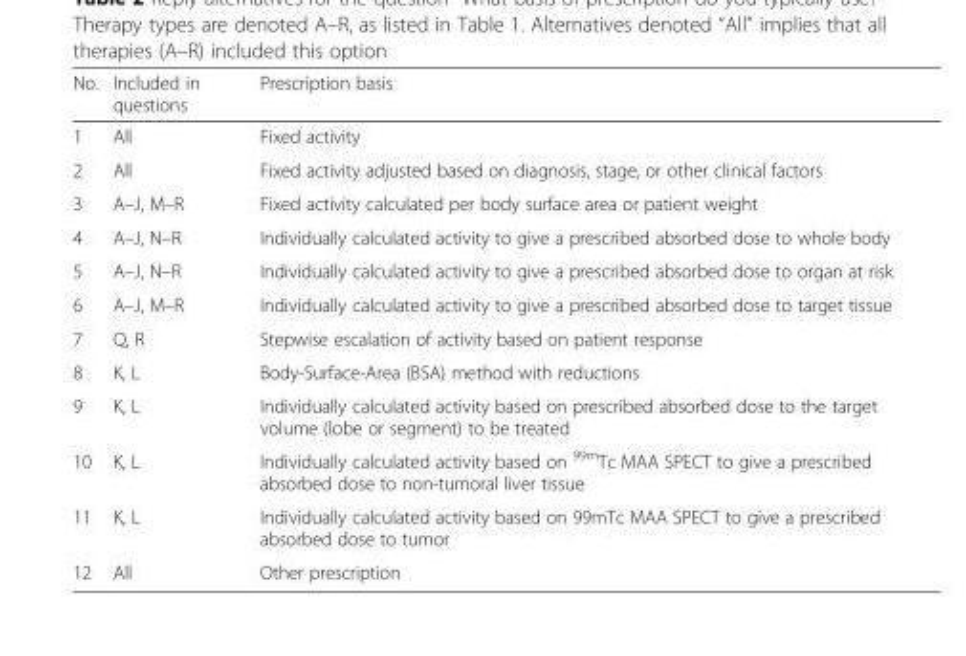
<table><thead><tr><td>No.</td><td>Included in questions</td><td>Prescription basis</td></tr></thead><tbody><tr><td>1</td><td>All</td><td>Fixed activity</td></tr><tr><td>2</td><td>All</td><td>Fixed activity adjusted based on diagnosis, stage, or other clinical factors</td></tr><tr><td>3</td><td>A–J, M–R</td><td>Fixed activity calculated per body surface area or patient weight</td></tr><tr><td>4</td><td>A–J, N–R</td><td>Individually calculated activity to give a prescribed absorbed dose to whole body</td></tr><tr><td>5</td><td>A–J, N–R</td><td>Individually calculated activity to give a prescribed absorbed dose to organ at risk</td></tr><tr><td>6</td><td>A–J, M–R</td><td>Individually calculated activity to give a prescribed absorbed dose to target tissue</td></tr><tr><td>7</td><td>Q, R</td><td>Stepwise escalation of activity based on patient response</td></tr><tr><td>8</td><td>K, L</td><td>Body-Surface-Area (BSA) method with reductions</td></tr><tr><td>9</td><td>K, L</td><td>Individually calculated activity based on prescribed absorbed dose to the target volume (lobe or segment) to be treated</td></tr><tr><td>10</td><td>K, L</td><td>Individually calculated activity based on <sup>99m</sup>Tc MAA SPECT to give a prescribed absorbed dose to non-tumoral liver tissue</td></tr><tr><td>11</td><td>K, L</td><td>Individually calculated activity based on 99mTc MAA SPECT to give a prescribed absorbed dose to tumor</td></tr><tr><td>12</td><td>All</td><td>Other prescription</td></tr></tbody></table>